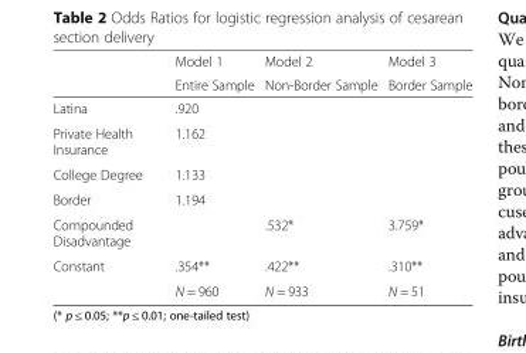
<table><thead><tr><td rowspan="2"></td><td rowspan="2">Model 1 Entire Sample</td><td rowspan="2">Model 2 Non-Border Sample</td><td rowspan="2">Model 3 Border Sample</td></tr><tr></tr></thead><tbody><tr><td>Latina</td><td>.920</td><td></td><td></td></tr><tr><td>Private Health Insurance</td><td>1.162</td><td></td><td></td></tr><tr><td>College Degree</td><td>1.133</td><td></td><td></td></tr><tr><td>Border</td><td>1.194</td><td></td><td></td></tr><tr><td>Compounded Disadvantage</td><td></td><td>.532*</td><td>3.759*</td></tr><tr><td rowspan="2">Constant</td><td>.354**</td><td>.422**</td><td>.310**</td></tr><tr><td>N = 960</td><td>N = 933</td><td>N = 51</td></tr></tbody></table>